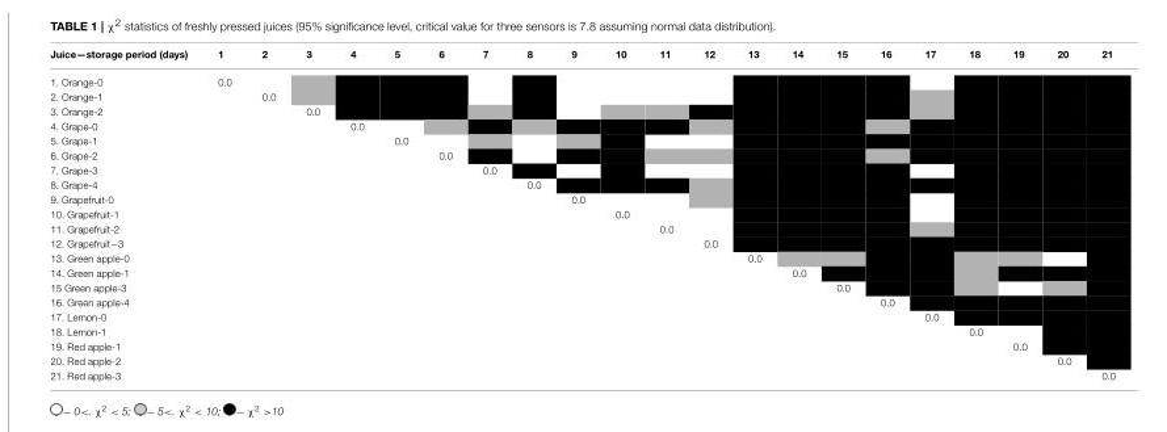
<table><thead><tr><td>Juice—storage period (days)</td><td>1</td><td>2</td><td>3</td><td>4</td><td>5</td><td>6</td><td>7</td><td>8</td><td>9</td><td>10</td><td>11</td><td>12</td><td>13</td><td>14</td><td>15</td><td>16</td><td>17</td><td>18</td><td>19</td><td>20</td><td>21</td></tr></thead><tbody><tr><td>1. Orange-0</td><td>0.0</td><td></td><td></td><td></td><td></td><td></td><td></td><td></td><td></td><td></td><td></td><td></td><td></td><td></td><td></td><td></td><td></td><td></td><td></td><td></td><td></td></tr><tr><td>2. Orange-1</td><td></td><td>0.0</td><td></td><td></td><td></td><td></td><td></td><td></td><td></td><td></td><td></td><td></td><td></td><td></td><td></td><td></td><td></td><td></td><td></td><td></td><td></td></tr><tr><td>3. Orange-2</td><td></td><td></td><td>0.0</td><td></td><td></td><td></td><td></td><td></td><td></td><td></td><td></td><td></td><td></td><td></td><td></td><td></td><td></td><td></td><td></td><td></td><td></td></tr><tr><td>4. Grape-0</td><td></td><td></td><td></td><td>0.0</td><td></td><td></td><td></td><td></td><td></td><td></td><td></td><td></td><td></td><td></td><td></td><td></td><td></td><td></td><td></td><td></td><td></td></tr><tr><td>5. Grape-1</td><td></td><td></td><td></td><td></td><td>0.0</td><td></td><td></td><td></td><td></td><td></td><td></td><td></td><td></td><td></td><td></td><td></td><td></td><td></td><td></td><td></td><td></td></tr><tr><td>6. Grape-2</td><td></td><td></td><td></td><td></td><td></td><td>0.0</td><td></td><td></td><td></td><td></td><td></td><td></td><td></td><td></td><td></td><td></td><td></td><td></td><td></td><td></td><td></td></tr><tr><td>7. Grape-3</td><td></td><td></td><td></td><td></td><td></td><td></td><td>0.0</td><td></td><td></td><td></td><td></td><td></td><td></td><td></td><td></td><td></td><td></td><td></td><td></td><td></td><td></td></tr><tr><td>8. Grape-4</td><td></td><td></td><td></td><td></td><td></td><td></td><td></td><td>0.0</td><td></td><td></td><td></td><td></td><td></td><td></td><td></td><td></td><td></td><td></td><td></td><td></td><td></td></tr><tr><td>9. Grapefruit-0</td><td></td><td></td><td></td><td></td><td></td><td></td><td></td><td></td><td>0.0</td><td></td><td></td><td></td><td></td><td></td><td></td><td></td><td></td><td></td><td></td><td></td><td></td></tr><tr><td>10. Grapefruit-1</td><td></td><td></td><td></td><td></td><td></td><td></td><td></td><td></td><td></td><td>0.0</td><td></td><td></td><td></td><td></td><td></td><td></td><td></td><td></td><td></td><td></td><td></td></tr><tr><td>11. Grapefruit-2</td><td></td><td></td><td></td><td></td><td></td><td></td><td></td><td></td><td></td><td></td><td>0.0</td><td></td><td></td><td></td><td></td><td></td><td></td><td></td><td></td><td></td><td></td></tr><tr><td>12. Grapefruit−3</td><td></td><td></td><td></td><td></td><td></td><td></td><td></td><td></td><td></td><td></td><td></td><td>0.0</td><td></td><td></td><td></td><td></td><td></td><td></td><td></td><td></td><td></td></tr><tr><td>13. Green apple-0</td><td></td><td></td><td></td><td></td><td></td><td></td><td></td><td></td><td></td><td></td><td></td><td></td><td>0.0</td><td></td><td></td><td></td><td></td><td></td><td></td><td></td><td></td></tr><tr><td>14. Green apple-1</td><td></td><td></td><td></td><td></td><td></td><td></td><td></td><td></td><td></td><td></td><td></td><td></td><td></td><td>0.0</td><td></td><td></td><td></td><td></td><td></td><td></td><td></td></tr><tr><td>15 Green apple-3</td><td></td><td></td><td></td><td></td><td></td><td></td><td></td><td></td><td></td><td></td><td></td><td></td><td></td><td></td><td>0.0</td><td></td><td></td><td></td><td></td><td></td><td></td></tr><tr><td>16. Green apple-4</td><td></td><td></td><td></td><td></td><td></td><td></td><td></td><td></td><td></td><td></td><td></td><td></td><td></td><td></td><td></td><td>0.0</td><td></td><td></td><td></td><td></td><td></td></tr><tr><td>17. Lemon-0</td><td></td><td></td><td></td><td></td><td></td><td></td><td></td><td></td><td></td><td></td><td></td><td></td><td></td><td></td><td></td><td></td><td>0.0</td><td></td><td></td><td></td><td></td></tr><tr><td>18. Lemon-1</td><td></td><td></td><td></td><td></td><td></td><td></td><td></td><td></td><td></td><td></td><td></td><td></td><td></td><td></td><td></td><td></td><td></td><td>0.0</td><td></td><td></td><td></td></tr><tr><td>19. Red apple-1</td><td></td><td></td><td></td><td></td><td></td><td></td><td></td><td></td><td></td><td></td><td></td><td></td><td></td><td></td><td></td><td></td><td></td><td></td><td>0.0</td><td></td><td></td></tr><tr><td>20. Red apple-2</td><td></td><td></td><td></td><td></td><td></td><td></td><td></td><td></td><td></td><td></td><td></td><td></td><td></td><td></td><td></td><td></td><td></td><td></td><td></td><td>0.0</td><td></td></tr><tr><td>21. Red apple-3</td><td></td><td></td><td></td><td></td><td></td><td></td><td></td><td></td><td></td><td></td><td></td><td></td><td></td><td></td><td></td><td></td><td></td><td></td><td></td><td></td><td>0.0</td></tr></tbody></table>